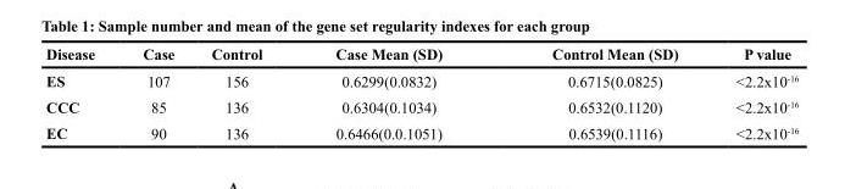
<table><thead><tr><td>Disease</td><td>Case</td><td>Control</td><td>Case Mean (SD)</td><td>Control Mean (SD)</td><td>P value</td></tr></thead><tbody><tr><td>ES</td><td>107</td><td>156</td><td>0.6299(0.0832)</td><td>0.6715(0.0825)</td><td>&lt;2.2x10<sup>-16</sup></td></tr><tr><td>CCC</td><td>85</td><td>136</td><td>0.6304(0.1034)</td><td>0.6532(0.1120)</td><td>&lt;2.2x10<sup>-16</sup></td></tr><tr><td>EC</td><td>90</td><td>136</td><td>0.6466(0.0.1051)</td><td>0.6539(0.1116)</td><td>&lt;2.2x10<sup>-16</sup></td></tr></tbody></table>